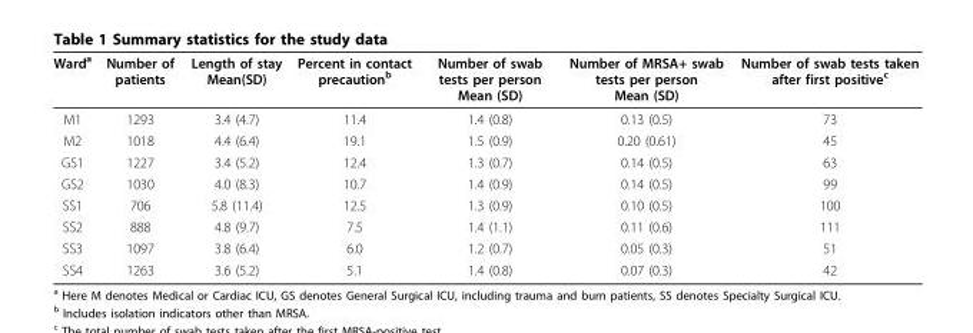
<table><thead><tr><td>Ward<sup>a</sup></td><td>Number of patients</td><td>Length of stay Mean(SD)</td><td>Percent in contact precaution<sup>b</sup></td><td>Number of swab tests per person Mean (SD)</td><td>Number of MRSA+ swab tests per person Mean (SD)</td><td>Number of swab tests taken after first positive<sup>c</sup></td></tr></thead><tbody><tr><td>M1</td><td>1293</td><td>3.4 (4.7)</td><td>11.4</td><td>1.4 (0.8)</td><td>0.13 (0.5)</td><td>73</td></tr><tr><td>M2</td><td>1018</td><td>4.4 (6.4)</td><td>19.1</td><td>1.5 (0.9)</td><td>0.20 (0.61)</td><td>45</td></tr><tr><td>GS1</td><td>1227</td><td>3.4 (5.2)</td><td>12.4</td><td>1.3 (0.7)</td><td>0.14 (0.5)</td><td>63</td></tr><tr><td>GS2</td><td>1030</td><td>4.0 (8.3)</td><td>10.7</td><td>1.4 (0.9)</td><td>0.14 (0.5)</td><td>99</td></tr><tr><td>SS1</td><td>706</td><td>5.8 (11.4)</td><td>12.5</td><td>1.3 (0.9)</td><td>0.10 (0.5)</td><td>100</td></tr><tr><td>SS2</td><td>888</td><td>4.8 (9.7)</td><td>7.5</td><td>1.4 (1.1)</td><td>0.11 (0.6)</td><td>111</td></tr><tr><td>SS3</td><td>1097</td><td>3.8 (6.4)</td><td>6.0</td><td>1.2 (0.7)</td><td>0.05 (0.3)</td><td>51</td></tr><tr><td>SS4</td><td>1263</td><td>3.6 (5.2)</td><td>5.1</td><td>1.4 (0.8)</td><td>0.07 (0.3)</td><td>42</td></tr></tbody></table>